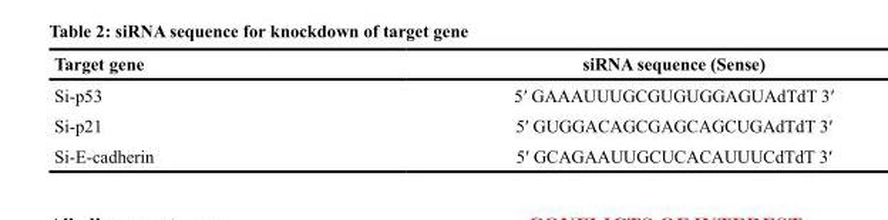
<table><thead><tr><td>Target gene</td><td>siRNA sequence (Sense)</td></tr></thead><tbody><tr><td>Si-p53</td><td>5′ GAAAUUUGCGUGUGGAGUAdTdT 3′</td></tr><tr><td>Si-p21</td><td>5′ GUGGACAGCGAGCAGCUGAdTdT 3′</td></tr><tr><td>Si-E-cadherin</td><td>5′ GCAGAAUUGCUCACAUUUCdTdT 3′</td></tr></tbody></table>